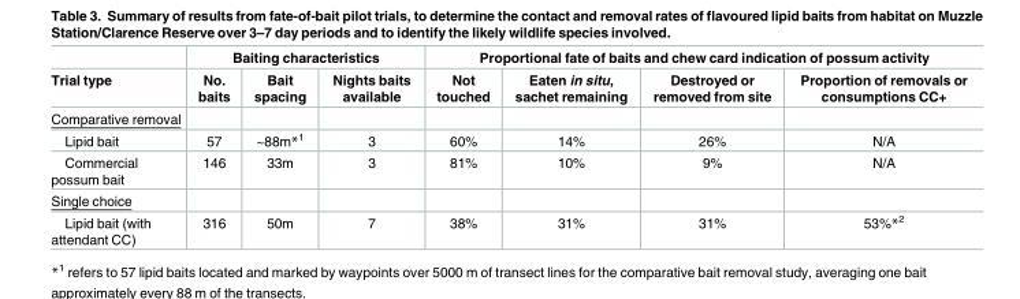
<table><thead><tr><td rowspan="2">Trial type</td><td colspan="3">Baiting characteristics</td><td colspan="4">Proportional fate of baits and chew card indication of possum activity</td></tr><tr><td>No. baits</td><td>Bait spacing</td><td>Nights baits available</td><td>Not touched</td><td>Eaten in situ, sachet remaining</td><td>Destroyed or removed from site</td><td>Proportion of removals or consumptions CC+</td></tr></thead><tbody><tr><td colspan="8">Comparative removal</td></tr><tr><td>Lipid bait</td><td>57</td><td>~88m*<sup>1</sup></td><td>3</td><td>60%</td><td>14%</td><td>26%</td><td>N/A</td></tr><tr><td>Commercial possum bait</td><td>146</td><td>33m</td><td>3</td><td>81%</td><td>10%</td><td>9%</td><td>N/A</td></tr><tr><td colspan="8">Single choice</td></tr><tr><td>Lipid bait (with attendant CC)</td><td>316</td><td>50m</td><td>7</td><td>38%</td><td>31%</td><td>31%</td><td>53%*<sup>2</sup></td></tr></tbody></table>